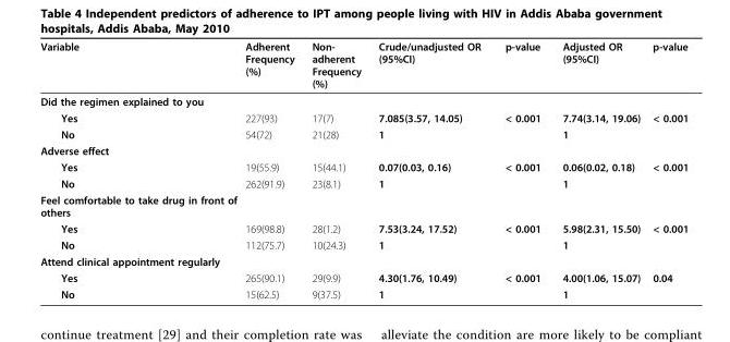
<table><thead><tr><td>Variable</td><td>Adherent Frequency (%)</td><td>Non- adherent Frequency (%)</td><td>Crude/unadjusted OR (95%CI)</td><td>p-value</td><td>Adjusted OR (95%CI)</td><td>p-value</td></tr></thead><tbody><tr><td colspan="7">Did the regimen explained to you</td></tr><tr><td>Yes</td><td>227(93)</td><td>17(7)</td><td>7.085(3.57, 14.05)</td><td>&lt; 0.001</td><td>7.74(3.14, 19.06)</td><td>&lt; 0.001</td></tr><tr><td>No</td><td>54(72)</td><td>21(28)</td><td>1</td><td></td><td>1</td><td></td></tr><tr><td colspan="7">Adverse effect</td></tr><tr><td>Yes</td><td>19(55.9)</td><td>15(44.1)</td><td>0.07(0.03, 0.16)</td><td>&lt; 0.001</td><td>0.06(0.02, 0.18)</td><td>&lt; 0.001</td></tr><tr><td>No</td><td>262(91.9)</td><td>23(8.1)</td><td>1</td><td></td><td>1</td><td></td></tr><tr><td colspan="7">Feel comfortable to take drug in front of others</td></tr><tr><td>Yes</td><td>169(98.8)</td><td>28(1.2)</td><td>7.53(3.24, 17.52)</td><td>&lt; 0.001</td><td>5.98(2.31, 15.50)</td><td>&lt; 0.001</td></tr><tr><td>No</td><td>112(75.7)</td><td>10(24.3)</td><td>1</td><td></td><td>1</td><td></td></tr><tr><td colspan="7">Attend clinical appointment regularly</td></tr><tr><td>Yes</td><td>265(90.1)</td><td>29(9.9)</td><td>4.30(1.76, 10.49)</td><td>&lt; 0.001</td><td>4.00(1.06, 15.07)</td><td>0.04</td></tr><tr><td>No</td><td>15(62.5)</td><td>9(37.5)</td><td>1</td><td></td><td>1</td><td></td></tr></tbody></table>